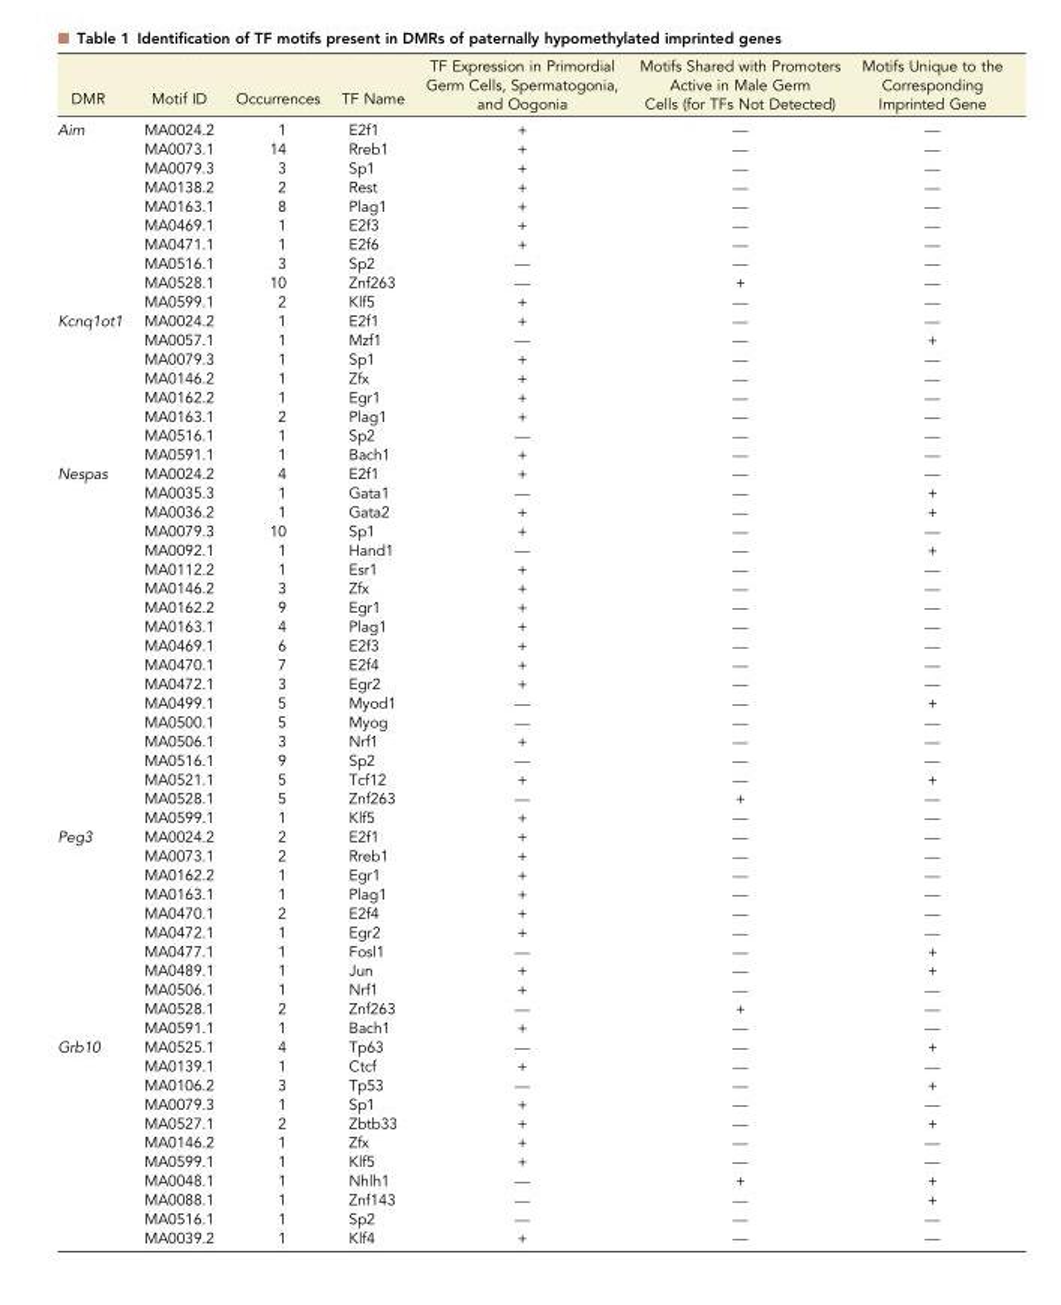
<table><thead><tr><td>DMR</td><td>Motif ID</td><td>Occurrences</td><td>TF Name</td><td>TF Expression in Primordial Germ Cells, Spermatogonia, and Oogonia</td><td>Motifs Shared with Promoters Active in Male Germ Cells (for TFs Not Detected)</td><td>Motifs Unique to the Corresponding Imprinted Gene</td></tr></thead><tbody><tr><td rowspan="10">Airn</td><td>MA0024.2</td><td>1</td><td>E2f1</td><td>+</td><td>—</td><td>—</td></tr><tr><td>MA0073.1</td><td>14</td><td>Rreb1</td><td>+</td><td>—</td><td>—</td></tr><tr><td>MA0079.3</td><td>3</td><td>Sp1</td><td>+</td><td>—</td><td>—</td></tr><tr><td>MA0138.2</td><td>2</td><td>Rest</td><td>+</td><td>—</td><td>—</td></tr><tr><td>MA0163.1</td><td>8</td><td>Plag1</td><td>+</td><td>—</td><td>—</td></tr><tr><td>MA0469.1</td><td>1</td><td>E2f3</td><td>+</td><td>—</td><td>—</td></tr><tr><td>MA0471.1</td><td>1</td><td>E2f6</td><td>+</td><td>—</td><td>—</td></tr><tr><td>MA0516.1</td><td>3</td><td>Sp2</td><td>—</td><td>—</td><td>—</td></tr><tr><td>MA0528.1</td><td>10</td><td>Znf263</td><td>—</td><td>+</td><td>—</td></tr><tr><td>MA0599.1</td><td>2</td><td>Klf5</td><td>+</td><td>—</td><td>—</td></tr><tr><td rowspan="8">Kcnq1ot1</td><td>MA0024.2</td><td>1</td><td>E2f1</td><td>+</td><td>—</td><td>—</td></tr><tr><td>MA0057.1</td><td>1</td><td>Mzf1</td><td>—</td><td>—</td><td>+</td></tr><tr><td>MA0079.3</td><td>1</td><td>Sp1</td><td>+</td><td>—</td><td>—</td></tr><tr><td>MA0146.2</td><td>1</td><td>Zfx</td><td>+</td><td>—</td><td>—</td></tr><tr><td>MA0162.2</td><td>1</td><td>Egr1</td><td>+</td><td>—</td><td>—</td></tr><tr><td>MA0163.1</td><td>2</td><td>Plag1</td><td>+</td><td>—</td><td>—</td></tr><tr><td>MA0516.1</td><td>1</td><td>Sp2</td><td>—</td><td>—</td><td>—</td></tr><tr><td>MA0591.1</td><td>1</td><td>Bach1</td><td>+</td><td>—</td><td>—</td></tr><tr><td rowspan="19">Nespas</td><td>MA0024.2</td><td>4</td><td>E2f1</td><td>+</td><td>—</td><td>—</td></tr><tr><td>MA0035.3</td><td>1</td><td>Gata1</td><td>—</td><td>—</td><td>+</td></tr><tr><td>MA0036.2</td><td>1</td><td>Gata2</td><td>+</td><td>—</td><td>+</td></tr><tr><td>MA0079.3</td><td>10</td><td>Sp1</td><td>+</td><td>—</td><td>—</td></tr><tr><td>MA0092.1</td><td>1</td><td>Hand1</td><td>—</td><td>—</td><td>+</td></tr><tr><td>MA0112.2</td><td>1</td><td>Esr1</td><td>+</td><td>—</td><td>—</td></tr><tr><td>MA0146.2</td><td>3</td><td>Zfx</td><td>+</td><td>—</td><td>—</td></tr><tr><td>MA0162.2</td><td>9</td><td>Egr1</td><td>+</td><td>—</td><td>—</td></tr><tr><td>MA0163.1</td><td>4</td><td>Plag1</td><td>+</td><td>—</td><td>—</td></tr><tr><td>MA0469.1</td><td>6</td><td>E2f3</td><td>+</td><td>—</td><td>—</td></tr><tr><td>MA0470.1</td><td>7</td><td>E2f4</td><td>+</td><td>—</td><td>—</td></tr><tr><td>MA0472.1</td><td>3</td><td>Egr2</td><td>+</td><td>—</td><td>—</td></tr><tr><td>MA0499.1</td><td>5</td><td>Myod1</td><td>—</td><td>—</td><td>+</td></tr><tr><td>MA0500.1</td><td>5</td><td>Myog</td><td>—</td><td>—</td><td>—</td></tr><tr><td>MA0506.1</td><td>3</td><td>Nrf1</td><td>+</td><td>—</td><td>—</td></tr><tr><td>MA0516.1</td><td>9</td><td>Sp2</td><td>—</td><td>—</td><td>—</td></tr><tr><td>MA0521.1</td><td>5</td><td>Tcf12</td><td>+</td><td>—</td><td>+</td></tr><tr><td>MA0528.1</td><td>5</td><td>Znf263</td><td>—</td><td>+</td><td>—</td></tr><tr><td>MA0599.1</td><td>1</td><td>Klf5</td><td>+</td><td>—</td><td>—</td></tr><tr><td rowspan="11">Peg3</td><td>MA0024.2</td><td>2</td><td>E2f1</td><td>+</td><td>—</td><td>—</td></tr><tr><td>MA0073.1</td><td>2</td><td>Rreb1</td><td>+</td><td>—</td><td>—</td></tr><tr><td>MA0162.2</td><td>1</td><td>Egr1</td><td>+</td><td>—</td><td>—</td></tr><tr><td>MA0163.1</td><td>1</td><td>Plag1</td><td>+</td><td>—</td><td>—</td></tr><tr><td>MA0470.1</td><td>2</td><td>E2f4</td><td>+</td><td>—</td><td>—</td></tr><tr><td>MA0472.1</td><td>1</td><td>Egr2</td><td>+</td><td>—</td><td>—</td></tr><tr><td>MA0477.1</td><td>1</td><td>Fosl1</td><td>—</td><td>—</td><td>+</td></tr><tr><td>MA0489.1</td><td>1</td><td>Jun</td><td>+</td><td>—</td><td>+</td></tr><tr><td>MA0506.1</td><td>1</td><td>Nrf1</td><td>+</td><td>—</td><td>—</td></tr><tr><td>MA0528.1</td><td>2</td><td>Znf263</td><td>—</td><td>+</td><td>—</td></tr><tr><td>MA0591.1</td><td>1</td><td>Bach1</td><td>+</td><td>—</td><td>—</td></tr><tr><td rowspan="11">Grb10</td><td>MA0525.1</td><td>4</td><td>Tp63</td><td>—</td><td>—</td><td>+</td></tr><tr><td>MA0139.1</td><td>1</td><td>Ctcf</td><td>+</td><td>—</td><td>—</td></tr><tr><td>MA0106.2</td><td>3</td><td>Tp53</td><td>—</td><td>—</td><td>+</td></tr><tr><td>MA0079.3</td><td>1</td><td>Sp1</td><td>+</td><td>—</td><td>—</td></tr><tr><td>MA0527.1</td><td>2</td><td>Zbtb33</td><td>+</td><td>—</td><td>+</td></tr><tr><td>MA0146.2</td><td>1</td><td>Zfx</td><td>+</td><td>—</td><td>—</td></tr><tr><td>MA0599.1</td><td>1</td><td>Klf5</td><td>+</td><td>—</td><td>—</td></tr><tr><td>MA0048.1</td><td>1</td><td>Nhlh1</td><td>—</td><td>+</td><td>+</td></tr><tr><td>MA0088.1</td><td>1</td><td>Znf143</td><td>—</td><td>—</td><td>+</td></tr><tr><td>MA0516.1</td><td>1</td><td>Sp2</td><td>—</td><td>—</td><td>—</td></tr><tr><td>MA0039.2</td><td>1</td><td>Klf4</td><td>+</td><td>—</td><td>—</td></tr></tbody></table>